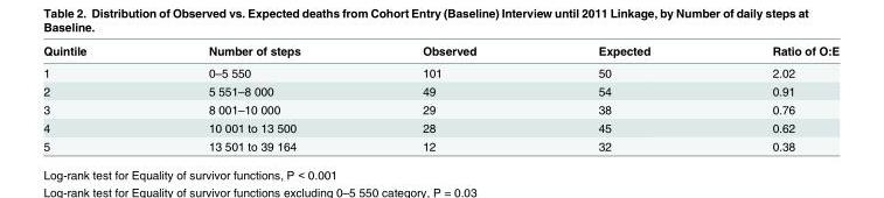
<table><thead><tr><td>Quintile</td><td>Number of steps</td><td>Observed</td><td>Expected</td><td>Ratio of O:E</td></tr></thead><tbody><tr><td>1</td><td>0–5 550</td><td>101</td><td>50</td><td>2.02</td></tr><tr><td>2</td><td>5 551–8 000</td><td>49</td><td>54</td><td>0.91</td></tr><tr><td>3</td><td>8 001–10 000</td><td>29</td><td>38</td><td>0.76</td></tr><tr><td>4</td><td>10 001 to 13 500</td><td>28</td><td>45</td><td>0.62</td></tr><tr><td>5</td><td>13 501 to 39 164</td><td>12</td><td>32</td><td>0.38</td></tr></tbody></table>